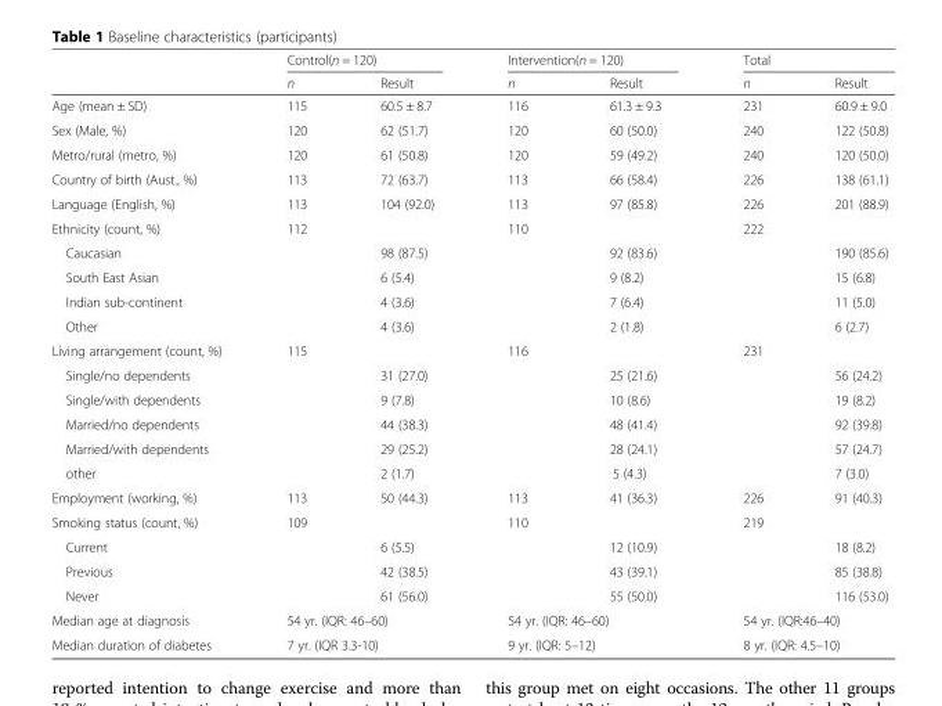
<table><thead><tr><td rowspan="2"></td><td colspan="2">Control(n = 120)</td><td colspan="2">Intervention(n = 120)</td><td colspan="2">Total</td></tr><tr><td>n</td><td>Result</td><td>n</td><td>Result</td><td>n</td><td>Result</td></tr></thead><tbody><tr><td>Age (mean ± SD)</td><td>115</td><td>60.5 ± 8.7</td><td>116</td><td>61.3 ± 9.3</td><td>231</td><td>60.9 ± 9.0</td></tr><tr><td>Sex (Male, %)</td><td>120</td><td>62 (51.7)</td><td>120</td><td>60 (50.0)</td><td>240</td><td>122 (50.8)</td></tr><tr><td>Metro/rural (metro, %)</td><td>120</td><td>61 (50.8)</td><td>120</td><td>59 (49.2)</td><td>240</td><td>120 (50.0)</td></tr><tr><td>Country of birth (Aust., %)</td><td>113</td><td>72 (63.7)</td><td>113</td><td>66 (58.4)</td><td>226</td><td>138 (61.1)</td></tr><tr><td>Language (English, %)</td><td>113</td><td>104 (92.0)</td><td>113</td><td>97 (85.8)</td><td>226</td><td>201 (88.9)</td></tr><tr><td>Ethnicity (count, %)</td><td>112</td><td></td><td>110</td><td></td><td>222</td><td></td></tr><tr><td>Caucasian</td><td></td><td>98 (87.5)</td><td></td><td>92 (83.6)</td><td></td><td>190 (85.6)</td></tr><tr><td>South East Asian</td><td></td><td>6 (5.4)</td><td></td><td>9 (8.2)</td><td></td><td>15 (6.8)</td></tr><tr><td>Indian sub-continent</td><td></td><td>4 (3.6)</td><td></td><td>7 (6.4)</td><td></td><td>11 (5.0)</td></tr><tr><td>Other</td><td></td><td>4 (3.6)</td><td></td><td>2 (1.8)</td><td></td><td>6 (2.7)</td></tr><tr><td>Living arrangement (count, %)</td><td>115</td><td></td><td>116</td><td></td><td>231</td><td></td></tr><tr><td>Single/no dependents</td><td></td><td>31 (27.0)</td><td></td><td>25 (21.6)</td><td></td><td>56 (24.2)</td></tr><tr><td>Single/with dependents</td><td></td><td>9 (7.8)</td><td></td><td>10 (8.6)</td><td></td><td>19 (8.2)</td></tr><tr><td>Married/no dependents</td><td></td><td>44 (38.3)</td><td></td><td>48 (41.4)</td><td></td><td>92 (39.8)</td></tr><tr><td>Married/with dependents</td><td></td><td>29 (25.2)</td><td></td><td>28 (24.1)</td><td></td><td>57 (24.7)</td></tr><tr><td>other</td><td></td><td>2 (1.7)</td><td></td><td>5 (4.3)</td><td></td><td>7 (3.0)</td></tr><tr><td>Employment (working, %)</td><td>113</td><td>50 (44.3)</td><td>113</td><td>41 (36.3)</td><td>226</td><td>91 (40.3)</td></tr><tr><td>Smoking status (count, %)</td><td>109</td><td></td><td>110</td><td></td><td>219</td><td></td></tr><tr><td>Current</td><td></td><td>6 (5.5)</td><td></td><td>12 (10.9)</td><td></td><td>18 (8.2)</td></tr><tr><td>Previous</td><td></td><td>42 (38.5)</td><td></td><td>43 (39.1)</td><td></td><td>85 (38.8)</td></tr><tr><td>Never</td><td></td><td>61 (56.0)</td><td></td><td>55 (50.0)</td><td></td><td>116 (53.0)</td></tr><tr><td>Median age at diagnosis</td><td colspan="2">54 yr. (IQR: 46–60)</td><td colspan="2">54 yr. (IQR: 46–60)</td><td colspan="2">54 yr. (IQR:46–40)</td></tr><tr><td>Median duration of diabetes</td><td colspan="2">7 yr. (IQR 3.3-10)</td><td colspan="2">9 yr. (IQR: 5–12)</td><td colspan="2">8 yr. (IQR: 4.5–10)</td></tr></tbody></table>